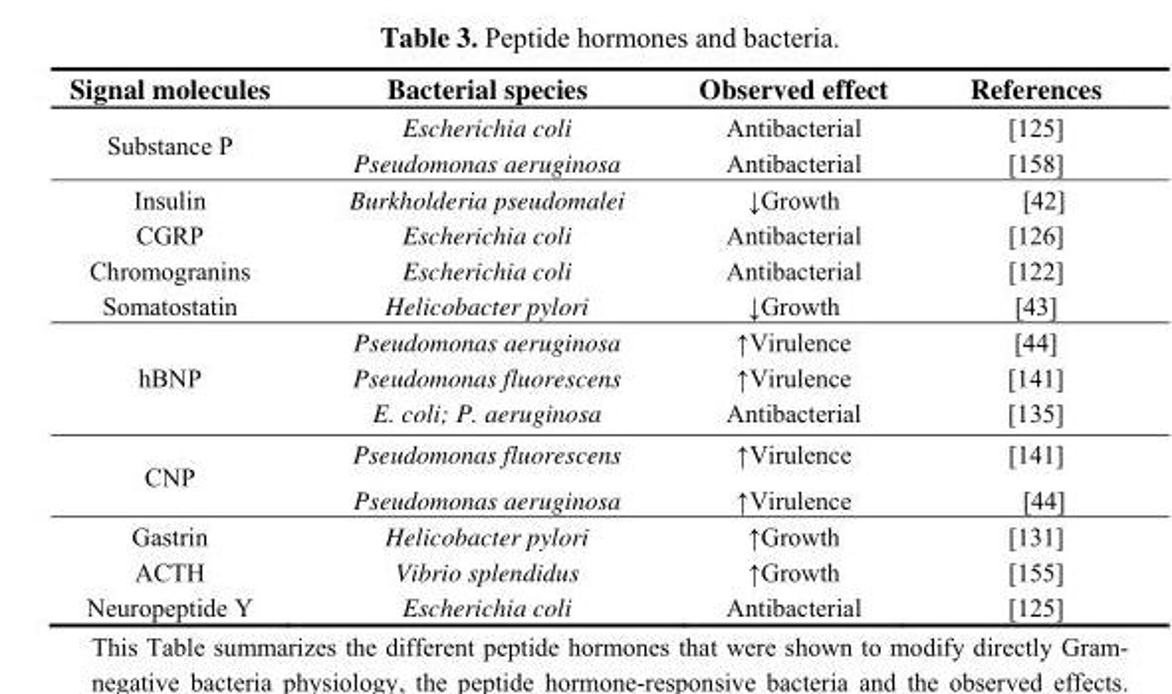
<table><thead><tr><td>Signal molecules</td><td>Bacterial species</td><td>Observed effect</td><td>References</td></tr></thead><tbody><tr><td rowspan="2">Substance P</td><td>Escherichia coli</td><td>Antibacterial</td><td>[125]</td></tr><tr><td>Pseudomonas aeruginosa</td><td>Antibacterial</td><td>[158]</td></tr><tr><td>Insulin</td><td>Burkholderia pseudomalei</td><td>↓Growth</td><td>[42]</td></tr><tr><td>CGRP</td><td>Escherichia coli</td><td>Antibacterial</td><td>[126]</td></tr><tr><td>Chromogranins</td><td>Escherichia coli</td><td>Antibacterial</td><td>[122]</td></tr><tr><td>Somatostatin</td><td>Helicobacter pylori</td><td>↓Growth</td><td>[43]</td></tr><tr><td rowspan="3">hBNP</td><td>Pseudomonas aeruginosa</td><td>↑Virulence</td><td>[44]</td></tr><tr><td>Pseudomonas fluorescens</td><td>↑Virulence</td><td>[141]</td></tr><tr><td>E. coli; P. aeruginosa</td><td>Antibacterial</td><td>[135]</td></tr><tr><td rowspan="2">CNP</td><td>Pseudomonas fluorescens</td><td>↑Virulence</td><td>[141]</td></tr><tr><td>Pseudomonas aeruginosa</td><td>↑Virulence</td><td>[44]</td></tr><tr><td>Gastrin</td><td>Helicobacter pylori</td><td>↑Growth</td><td>[131]</td></tr><tr><td>ACTH</td><td>Vibrio splendidus</td><td>↑Growth</td><td>[155]</td></tr><tr><td>Neuropeptide Y</td><td>Escherichia coli</td><td>Antibacterial</td><td>[125]</td></tr></tbody></table>